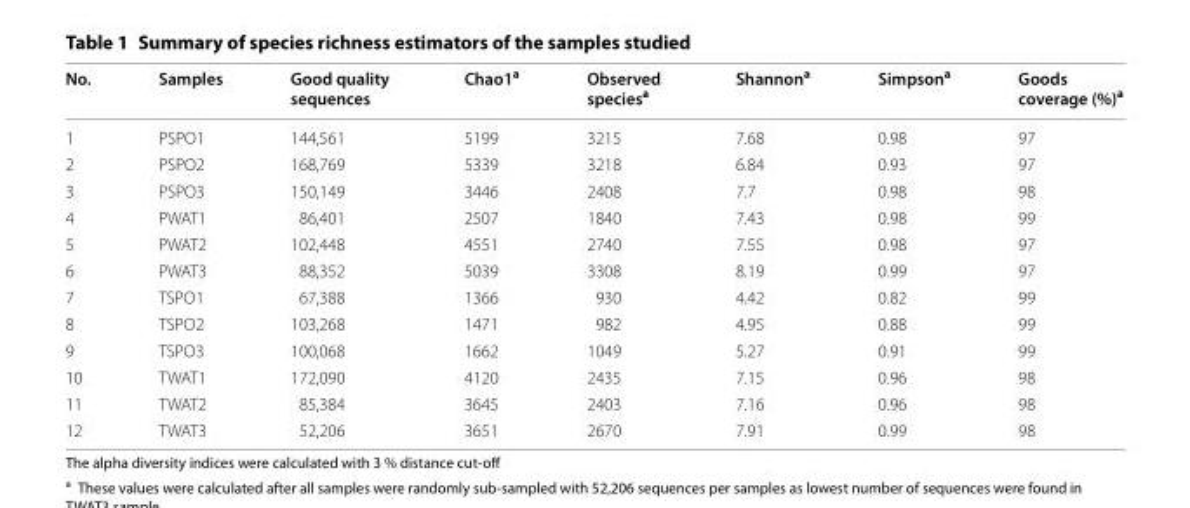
<table><thead><tr><td>No.</td><td>Samples</td><td>Good quality sequences</td><td>Chao1<sup>a</sup></td><td>Observed species<sup>a</sup></td><td>Shannon<sup>a</sup></td><td>Simpson<sup>a</sup></td><td>Goods coverage (%)<sup>a</sup></td></tr></thead><tbody><tr><td>1</td><td>PSPO1</td><td>144,561</td><td>5199</td><td>3215</td><td>7.68</td><td>0.98</td><td>97</td></tr><tr><td>2</td><td>PSPO2</td><td>168,769</td><td>5339</td><td>3218</td><td>6.84</td><td>0.93</td><td>97</td></tr><tr><td>3</td><td>PSPO3</td><td>150,149</td><td>3446</td><td>2408</td><td>7.7</td><td>0.98</td><td>98</td></tr><tr><td>4</td><td>PWAT1</td><td>86,401</td><td>2507</td><td>1840</td><td>7.43</td><td>0.98</td><td>99</td></tr><tr><td>5</td><td>PWAT2</td><td>102,448</td><td>4551</td><td>2740</td><td>7.55</td><td>0.98</td><td>97</td></tr><tr><td>6</td><td>PWAT3</td><td>88,352</td><td>5039</td><td>3308</td><td>8.19</td><td>0.99</td><td>97</td></tr><tr><td>7</td><td>TSPO1</td><td>67,388</td><td>1366</td><td>930</td><td>4.42</td><td>0.82</td><td>99</td></tr><tr><td>8</td><td>TSPO2</td><td>103,268</td><td>1471</td><td>982</td><td>4.95</td><td>0.88</td><td>99</td></tr><tr><td>9</td><td>TSPO3</td><td>100,068</td><td>1662</td><td>1049</td><td>5.27</td><td>0.91</td><td>99</td></tr><tr><td>10</td><td>TWAT1</td><td>172,090</td><td>4120</td><td>2435</td><td>7.15</td><td>0.96</td><td>98</td></tr><tr><td>11</td><td>TWAT2</td><td>85,384</td><td>3645</td><td>2403</td><td>7.16</td><td>0.96</td><td>98</td></tr><tr><td>12</td><td>TWAT3</td><td>52,206</td><td>3651</td><td>2670</td><td>7.91</td><td>0.99</td><td>98</td></tr></tbody></table>